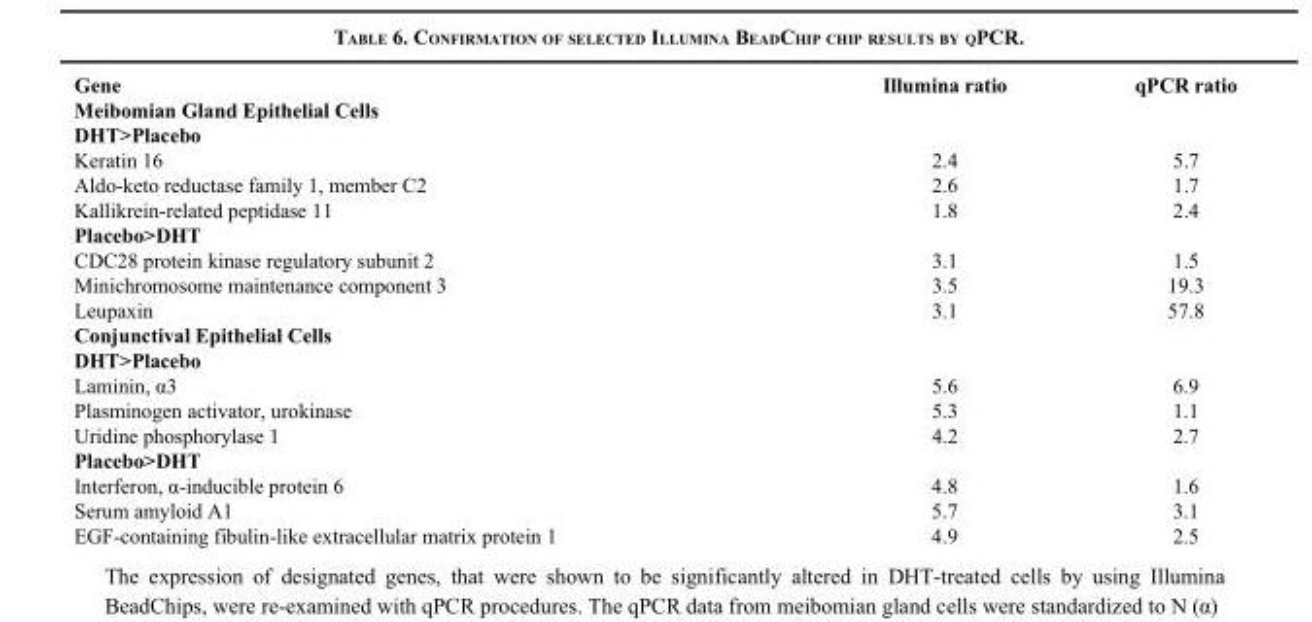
<table><thead><tr><td>Gene</td><td>Illumina ratio</td><td>qPCR ratio</td></tr></thead><tbody><tr><td colspan="3">Meibomian Gland Epithelial Cells</td></tr><tr><td colspan="3">DHT&gt;Placebo</td></tr><tr><td>Keratin 16</td><td>2.4</td><td>5.7</td></tr><tr><td>Aldo-keto reductase family 1, member C2</td><td>2.6</td><td>1.7</td></tr><tr><td>Kallikrein-related peptidase 11</td><td>1.8</td><td>2.4</td></tr><tr><td colspan="3">Placebo&gt;DHT</td></tr><tr><td>CDC28 protein kinase regulatory subunit 2</td><td>3.1</td><td>1.5</td></tr><tr><td>Minichromosome maintenance component 3</td><td>3.5</td><td>19.3</td></tr><tr><td>Leupaxin</td><td>3.1</td><td>57.8</td></tr><tr><td colspan="3">Conjunctival Epithelial Cells</td></tr><tr><td colspan="3">DHT&gt;Placebo</td></tr><tr><td>Laminin, α3</td><td>5.6</td><td>6.9</td></tr><tr><td>Plasminogen activator, urokinase</td><td>5.3</td><td>1.1</td></tr><tr><td>Uridine phosphorylase 1</td><td>4.2</td><td>2.7</td></tr><tr><td colspan="3">Placebo&gt;DHT</td></tr><tr><td>Interferon, α-inducible protein 6</td><td>4.8</td><td>1.6</td></tr><tr><td>Serum amyloid A1</td><td>5.7</td><td>3.1</td></tr><tr><td>EGF-containing fibulin-like extracellular matrix protein 1</td><td>4.9</td><td>2.5</td></tr></tbody></table>